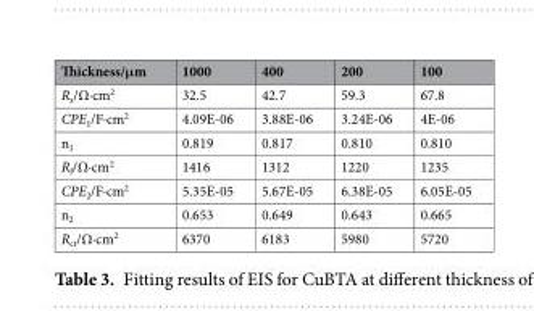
<table><thead><tr><td>Thickness/μm</td><td>1000</td><td>400</td><td>200</td><td>100</td></tr></thead><tbody><tr><td>R<sub>s</sub>/Ω·cm<sup>2</sup></td><td>32.5</td><td>42.7</td><td>59.3</td><td>67.8</td></tr><tr><td>CPE<sub>1</sub>/F·cm<sup>2</sup></td><td>4.09E-06</td><td>3.88E-06</td><td>3.24E-06</td><td>4E-06</td></tr><tr><td>n<sub>1</sub></td><td>0.819</td><td>0.817</td><td>0.810</td><td>0.810</td></tr><tr><td>R<sub>f</sub>/Ω·cm<sup>2</sup></td><td>1416</td><td>1312</td><td>1220</td><td>1235</td></tr><tr><td>CPE<sub>2</sub>/F·cm<sup>2</sup></td><td>5.35E-05</td><td>5.67E-05</td><td>6.38E-05</td><td>6.05E-05</td></tr><tr><td>n<sub>2</sub></td><td>0.653</td><td>0.649</td><td>0.643</td><td>0.665</td></tr><tr><td>R<sub>ct</sub>/Ω·cm<sup>2</sup></td><td>6370</td><td>6183</td><td>5980</td><td>5720</td></tr></tbody></table>